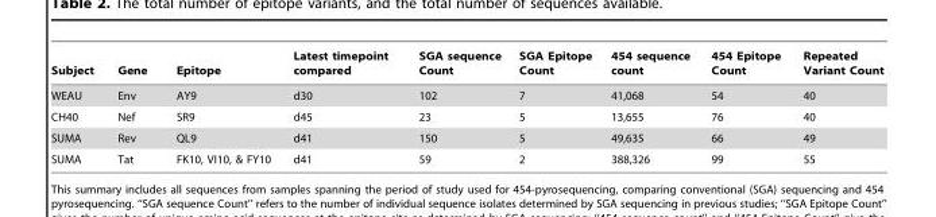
<table><thead><tr><td>Subject</td><td>Gene</td><td>Epitope</td><td>Latest timepoint compared</td><td>SGA sequence Count</td><td>SGA Epitope Count</td><td>454 sequence count</td><td>454 Epitope Count</td><td>Repeated Variant Count</td></tr></thead><tbody><tr><td>WEAU</td><td>Env</td><td>AY9</td><td>d30</td><td>102</td><td>7</td><td>41,068</td><td>54</td><td>40</td></tr><tr><td>CH40</td><td>Nef</td><td>SR9</td><td>d45</td><td>23</td><td>5</td><td>13,655</td><td>76</td><td>40</td></tr><tr><td>SUMA</td><td>Rev</td><td>QL9</td><td>d41</td><td>150</td><td>5</td><td>49,635</td><td>66</td><td>49</td></tr><tr><td>SUMA</td><td>Tat</td><td>FK10, VI10, &amp; FY10</td><td>d41</td><td>59</td><td>2</td><td>388,326</td><td>99</td><td>55</td></tr></tbody></table>